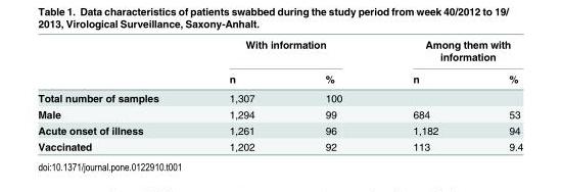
<table><thead><tr><td rowspan="2"></td><td colspan="2">With information</td><td colspan="2">Among them with information</td></tr><tr><td>n</td><td>%</td><td>n</td><td>%</td></tr></thead><tbody><tr><td>Total number of samples</td><td>1,307</td><td>100</td><td></td><td></td></tr><tr><td>Male</td><td>1,294</td><td>99</td><td>684</td><td>53</td></tr><tr><td>Acute onset of illness</td><td>1,261</td><td>96</td><td>1,182</td><td>94</td></tr><tr><td>Vaccinated</td><td>1,202</td><td>92</td><td>113</td><td>9.4</td></tr></tbody></table>